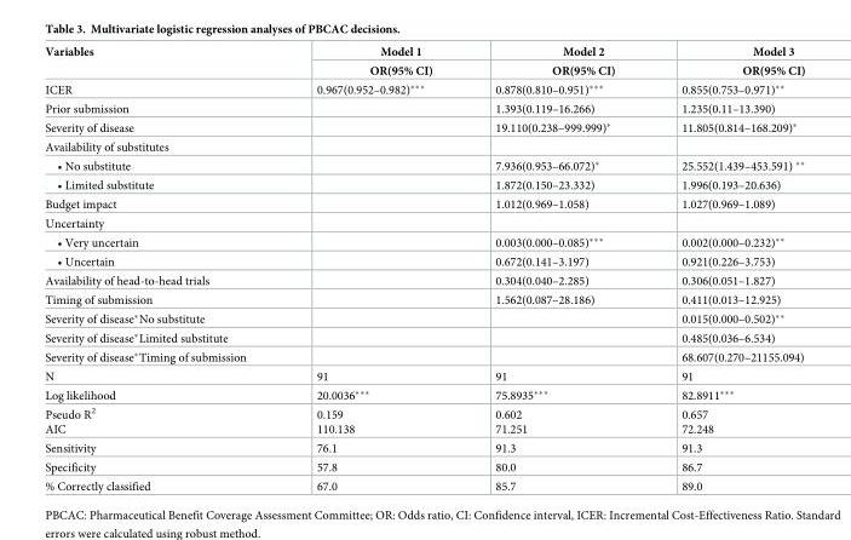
<table><thead><tr><td rowspan="2">Variables</td><td rowspan="2">Model 1 OR(95% CI)</td><td rowspan="2">Model 2 OR(95% CI)</td><td rowspan="2">Model 3 OR(95% CI)</td></tr><tr></tr></thead><tbody><tr><td>ICER</td><td>0.967(0.952–0.982)***</td><td>0.878(0.810–0.951)***</td><td>0.855(0.753–0.971)**</td></tr><tr><td>Prior submission</td><td></td><td>1.393(0.119–16.266)</td><td>1.235(0.11–13.390)</td></tr><tr><td>Severity of disease</td><td></td><td>19.110(0.238–999.999)*</td><td>11.805(0.814–168.209)*</td></tr><tr><td colspan="4">Availability of substitutes</td></tr><tr><td>• No substitute</td><td></td><td>7.936(0.953–66.072)*</td><td>25.552(1.439–453.591) **</td></tr><tr><td>• Limited substitute</td><td></td><td>1.872(0.150–23.332)</td><td>1.996(0.193–20.636)</td></tr><tr><td>Budget impact</td><td></td><td>1.012(0.969–1.058)</td><td>1.027(0.969–1.089)</td></tr><tr><td colspan="4">Uncertainty</td></tr><tr><td>• Very uncertain</td><td></td><td>0.003(0.000–0.085)***</td><td>0.002(0.000–0.232)**</td></tr><tr><td>• Uncertain</td><td></td><td>0.672(0.141–3.197)</td><td>0.921(0.226–3.753)</td></tr><tr><td>Availability of head-to-head trials</td><td></td><td>0.304(0.040–2.285)</td><td>0.306(0.051–1.827)</td></tr><tr><td>Timing of submission</td><td></td><td>1.562(0.087–28.186)</td><td>0.411(0.013–12.925)</td></tr><tr><td>Severity of disease*No substitute</td><td></td><td></td><td>0.015(0.000–0.502)**</td></tr><tr><td>Severity of disease*Limited substitute</td><td></td><td></td><td>0.485(0.036–6.534)</td></tr><tr><td>Severity of disease*Timing of submission</td><td></td><td></td><td>68.607(0.270–21155.094)</td></tr><tr><td>N</td><td>91</td><td>91</td><td>91</td></tr><tr><td>Log likelihood</td><td>20.0036***</td><td>75.8935***</td><td>82.8911***</td></tr><tr><td>Pseudo R<sup>2</sup> AIC</td><td>0.159 110.138</td><td>0.602 71.251</td><td>0.657 72.248</td></tr><tr><td>Sensitivity</td><td>76.1</td><td>91.3</td><td>91.3</td></tr><tr><td>Specificity</td><td>57.8</td><td>80.0</td><td>86.7</td></tr><tr><td>% Correctly classified</td><td>67.0</td><td>85.7</td><td>89.0</td></tr></tbody></table>